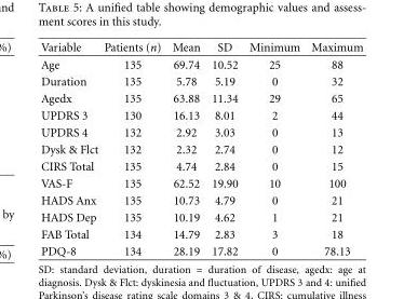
<table><thead><tr><td>Variable</td><td>Patients (n)</td><td>Mean</td><td>SD</td><td>Minimum</td><td>Maximum</td></tr></thead><tbody><tr><td>Age</td><td>135</td><td>69.74</td><td>10.52</td><td>25</td><td>88</td></tr><tr><td>Duration</td><td>135</td><td>5.78</td><td>5.19</td><td>0</td><td>32</td></tr><tr><td>Agedx</td><td>135</td><td>63.88</td><td>11.34</td><td>29</td><td>65</td></tr><tr><td>UPDRS 3</td><td>130</td><td>16.13</td><td>8.01</td><td>2</td><td>44</td></tr><tr><td>UPDRS 4</td><td>132</td><td>2.92</td><td>3.03</td><td>0</td><td>13</td></tr><tr><td>Dysk &amp; Flct</td><td>132</td><td>2.32</td><td>2.74</td><td>0</td><td>12</td></tr><tr><td>CIRS Total</td><td>135</td><td>4.74</td><td>2.84</td><td>0</td><td>15</td></tr><tr><td>VAS-F</td><td>135</td><td>62.52</td><td>19.90</td><td>10</td><td>100</td></tr><tr><td>HADS Anx</td><td>135</td><td>10.73</td><td>4.79</td><td>0</td><td>21</td></tr><tr><td>HADS Dep</td><td>135</td><td>10.19</td><td>4.62</td><td>1</td><td>21</td></tr><tr><td>FAB Total</td><td>134</td><td>14.79</td><td>2.83</td><td>3</td><td>18</td></tr><tr><td>PDQ-8</td><td>134</td><td>28.19</td><td>17.82</td><td>0</td><td>78.13</td></tr></tbody></table>